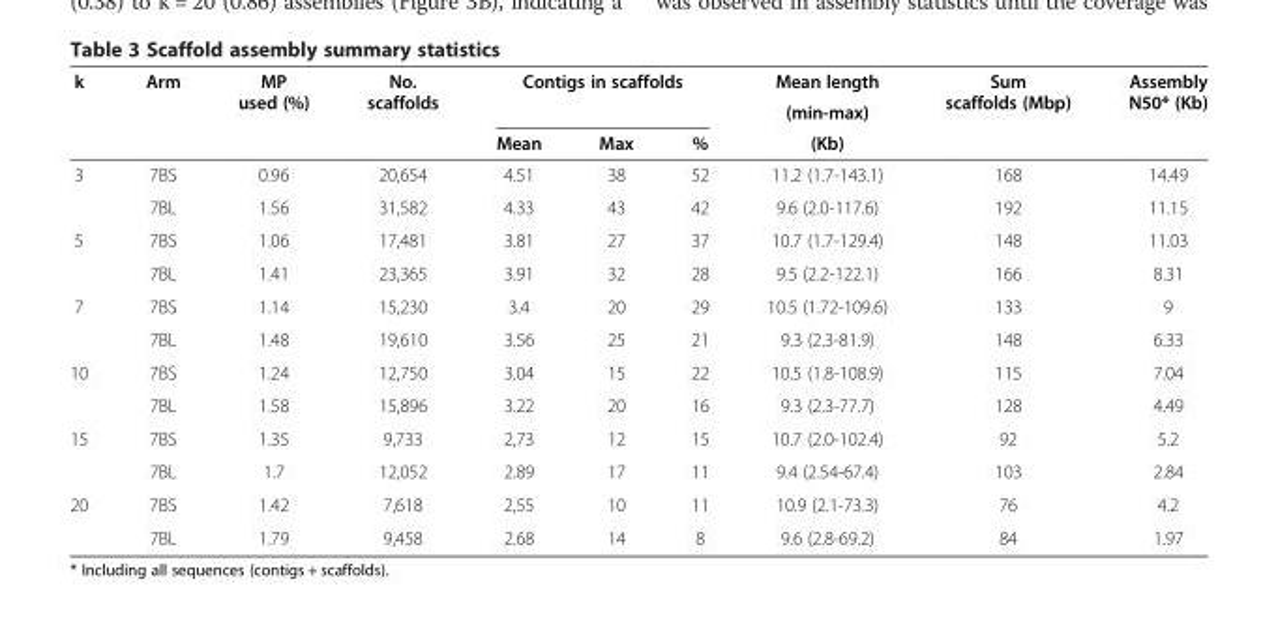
<table><thead><tr><td rowspan="3">k</td><td rowspan="3">Arm</td><td rowspan="3">MP used (%)</td><td rowspan="3">No. scaffolds</td><td colspan="3">Contigs in scaffolds</td><td rowspan="3">Mean length (min-max) (Kb)</td><td rowspan="3">Sum scaffolds (Mbp)</td><td rowspan="3">Assembly N50* (Kb)</td></tr><tr><td rowspan="2">Mean</td><td rowspan="2">Max</td><td rowspan="2">%</td></tr><tr></tr></thead><tbody><tr><td rowspan="2">3</td><td>7BS</td><td>0.96</td><td>20,654</td><td>4.51</td><td>38</td><td>52</td><td>11.2 (1.7-143.1)</td><td>168</td><td>14.49</td></tr><tr><td>7BL</td><td>1.56</td><td>31,582</td><td>4.33</td><td>43</td><td>42</td><td>9.6 (2.0-117.6)</td><td>192</td><td>11.15</td></tr><tr><td rowspan="2">5</td><td>7BS</td><td>1.06</td><td>17,481</td><td>3.81</td><td>27</td><td>37</td><td>10.7 (1.7-129.4)</td><td>148</td><td>11.03</td></tr><tr><td>7BL</td><td>1.41</td><td>23,365</td><td>3.91</td><td>32</td><td>28</td><td>9.5 (2.2-122.1)</td><td>166</td><td>8.31</td></tr><tr><td rowspan="2">7</td><td>7BS</td><td>1.14</td><td>15,230</td><td>3.4</td><td>20</td><td>29</td><td>10.5 (1.72-109.6)</td><td>133</td><td>9</td></tr><tr><td>7BL</td><td>1.48</td><td>19,610</td><td>3.56</td><td>25</td><td>21</td><td>9.3 (2.3-81.9)</td><td>148</td><td>6.33</td></tr><tr><td rowspan="2">10</td><td>7BS</td><td>1.24</td><td>12,750</td><td>3.04</td><td>15</td><td>22</td><td>10.5 (1.8-108.9)</td><td>115</td><td>7.04</td></tr><tr><td>7BL</td><td>1.58</td><td>15,896</td><td>3.22</td><td>20</td><td>16</td><td>9.3 (2.3-77.7)</td><td>128</td><td>4.49</td></tr><tr><td rowspan="2">15</td><td>7BS</td><td>1.35</td><td>9,733</td><td>2,73</td><td>12</td><td>15</td><td>10.7 (2.0-102.4)</td><td>92</td><td>5.2</td></tr><tr><td>7BL</td><td>1.7</td><td>12,052</td><td>2.89</td><td>17</td><td>11</td><td>9.4 (2.54-67.4)</td><td>103</td><td>2.84</td></tr><tr><td rowspan="2">20</td><td>7BS</td><td>1.42</td><td>7,618</td><td>2,55</td><td>10</td><td>11</td><td>10.9 (2.1-73.3)</td><td>76</td><td>4.2</td></tr><tr><td>7BL</td><td>1.79</td><td>9,458</td><td>2.68</td><td>14</td><td>8</td><td>9.6 (2.8-69.2)</td><td>84</td><td>1.97</td></tr></tbody></table>